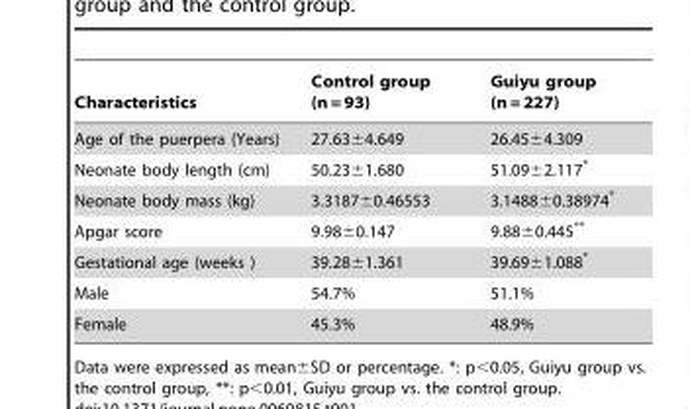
<table><thead><tr><td>Characteristics</td><td>Control group (n = 93)</td><td>Guiyu group (n = 227)</td></tr></thead><tbody><tr><td>Age of the puerpera (Years)</td><td>27.63±4.649</td><td>26.45±4.309</td></tr><tr><td>Neonate body length (cm)</td><td>50.23±1.680</td><td>51.09±2.117*</td></tr><tr><td>Neonate body mass (kg)</td><td>3.3187±0.46553</td><td>3.1488±0.38974*</td></tr><tr><td>Apgar score</td><td>9.98±0.147</td><td>9.88±0.445**</td></tr><tr><td>Gestational age (weeks )</td><td>39.28±1.361</td><td>39.69±1.088*</td></tr><tr><td>Male</td><td>54.7%</td><td>51.1%</td></tr><tr><td>Female</td><td>45.3%</td><td>48.9%</td></tr></tbody></table>